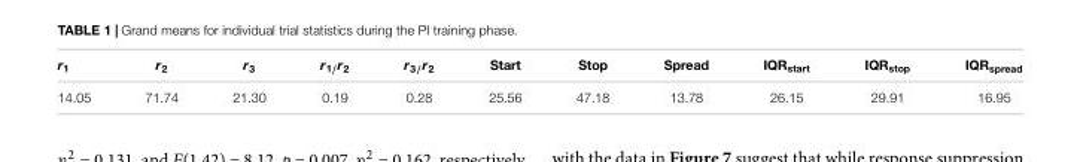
<table><thead><tr><td>r<sub>1</sub></td><td>r<sub>2</sub></td><td>r<sub>3</sub></td><td>r<sub>1/</sub>r<sub>2</sub></td><td>r<sub>3/</sub>r<sub>2</sub></td><td>Start</td><td>Stop</td><td>Spread</td><td>IQR<sub>start</sub></td><td>IQR<sub>stop</sub></td><td>IQR<sub>spread</sub></td></tr></thead><tbody><tr><td>14.05</td><td>71.74</td><td>21.30</td><td>0.19</td><td>0.28</td><td>25.56</td><td>47.18</td><td>13.78</td><td>26.15</td><td>29.91</td><td>16.95</td></tr></tbody></table>